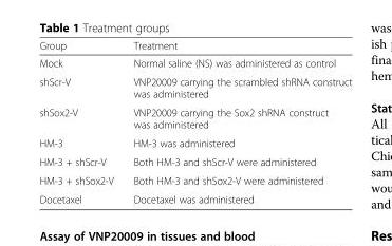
<table><thead><tr><td>Group</td><td>Treatment</td></tr></thead><tbody><tr><td>Mock</td><td>Normal saline (NS) was administered as control</td></tr><tr><td>shScr-V</td><td>VNP20009 carrying the scrambled shRNA construct was administered</td></tr><tr><td>shSox2-V</td><td>VNP20009 carrying the Sox2 shRNA construct was administered</td></tr><tr><td>HM-3</td><td>HM-3 was administered</td></tr><tr><td>HM-3 + shScr-V</td><td>Both HM-3 and shScr-V were administered</td></tr><tr><td>HM-3 + shSox2-V</td><td>Both HM-3 and shSox2-V were administered</td></tr><tr><td>Docetaxel</td><td>Docetaxel was administered</td></tr></tbody></table>